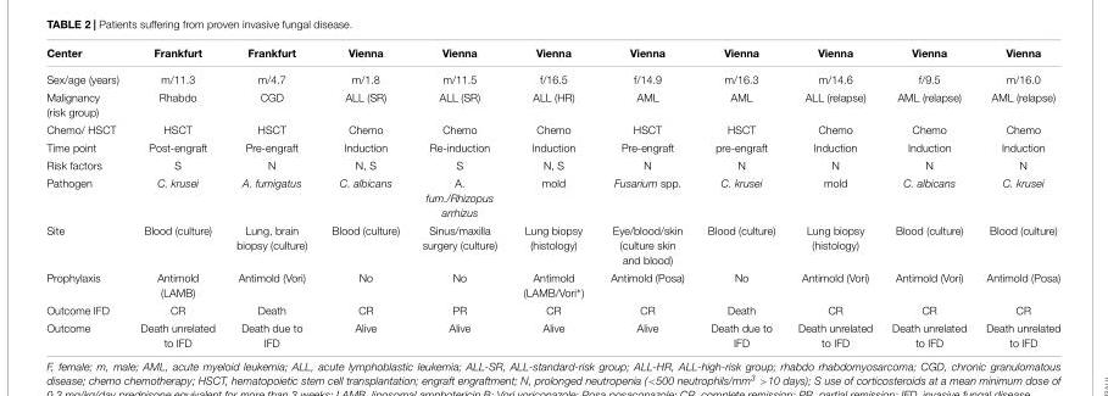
<table><thead><tr><td>Center</td><td>Frankfurt</td><td>Frankfurt</td><td>Vienna</td><td>Vienna</td><td>Vienna</td><td>Vienna</td><td>Vienna</td><td>Vienna</td><td>Vienna</td><td>Vienna</td></tr></thead><tbody><tr><td>Sex/age (years)</td><td>m/11.3</td><td>m/4.7</td><td>m/1.8</td><td>m/11.5</td><td>f/16.5</td><td>f/14.9</td><td>m/16.3</td><td>m/14.6</td><td>f/9.5</td><td>m/16.0</td></tr><tr><td>Malignancy (risk group)</td><td>Rhabdo</td><td>CGD</td><td>ALL (SR)</td><td>ALL (SR)</td><td>ALL (HR)</td><td>AML</td><td>AML</td><td>ALL (relapse)</td><td>AML (relapse)</td><td>AML (relapse)</td></tr><tr><td>Chemo/ HSCT</td><td>HSCT</td><td>HSCT</td><td>Chemo</td><td>Chemo</td><td>Chemo</td><td>HSCT</td><td>HSCT</td><td>Chemo</td><td>Chemo</td><td>Chemo</td></tr><tr><td>Time point</td><td>Post-engraft</td><td>Pre-engraft</td><td>Induction</td><td>Re-induction</td><td>Induction</td><td>Pre-engraft</td><td>pre-engraft</td><td>Induction</td><td>Induction</td><td>Induction</td></tr><tr><td>Risk factors</td><td>S</td><td>N</td><td>N, S</td><td>S</td><td>N, S</td><td>N</td><td>N</td><td>N</td><td>N</td><td>N</td></tr><tr><td>Pathogen</td><td>C. krusei</td><td>A. fumigatus</td><td>C. albicans</td><td>A. fum./Rhizopus arrhizus</td><td>mold</td><td>Fusarium spp.</td><td>C. krusei</td><td>mold</td><td>C. albicans</td><td>C. krusei</td></tr><tr><td>Site</td><td>Blood (culture)</td><td>Lung, brain biopsy (culture)</td><td>Blood (culture)</td><td>Sinus/maxilla surgery (culture)</td><td>Lung biopsy (histology)</td><td>Eye/blood/skin (culture skin and blood)</td><td>Blood (culture)</td><td>Lung biopsy (histology)</td><td>Blood (culture)</td><td>Blood (culture)</td></tr><tr><td>Prophylaxis</td><td>Antimold (LAMB)</td><td>Antimold (Vori)</td><td>No</td><td>No</td><td>Antimold (LAMB/Vori∗)</td><td>Antimold (Posa)</td><td>No</td><td>Antimold (Vori)</td><td>Antimold (Vori)</td><td>Antimold (Posa)</td></tr><tr><td>Outcome IFD</td><td>CR</td><td>Death</td><td>CR</td><td>PR</td><td>CR</td><td>CR</td><td>Death</td><td>CR</td><td>CR</td><td>CR</td></tr><tr><td>Outcome</td><td>Death unrelated to IFD</td><td>Death due to IFD</td><td>Alive</td><td>Alive</td><td>Alive</td><td>Alive</td><td>Death due to IFD</td><td>Death unrelated to IFD</td><td>Death unrelated to IFD</td><td>Death unrelated to IFD</td></tr></tbody></table>